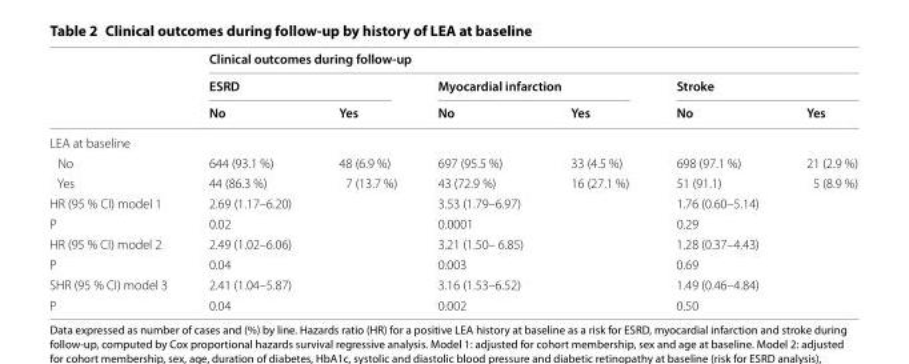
<table><thead><tr><td rowspan="3"></td><td colspan="6">Clinical outcomes during follow‑up</td></tr><tr><td colspan="2">ESRD</td><td colspan="2">Myocardial infarction</td><td colspan="2">Stroke</td></tr><tr><td>No</td><td>Yes</td><td>No</td><td>Yes</td><td>No</td><td>Yes</td></tr></thead><tbody><tr><td colspan="7">LEA at baseline</td></tr><tr><td>No</td><td>644 (93.1 %)</td><td>48 (6.9 %)</td><td>697 (95.5 %)</td><td>33 (4.5 %)</td><td>698 (97.1 %)</td><td>21 (2.9 %)</td></tr><tr><td>Yes</td><td>44 (86.3 %)</td><td>7 (13.7 %)</td><td>43 (72.9 %)</td><td>16 (27.1 %)</td><td>51 (91.1)</td><td>5 (8.9 %)</td></tr><tr><td>HR (95 % CI) model 1</td><td>2.69 (1.17–6.20)</td><td></td><td>3.53 (1.79–6.97)</td><td></td><td>1.76 (0.60–5.14)</td><td></td></tr><tr><td>P</td><td>0.02</td><td></td><td>0.0001</td><td></td><td>0.29</td><td></td></tr><tr><td>HR (95 % CI) model 2</td><td>2.49 (1.02–6.06)</td><td></td><td>3.21 (1.50– 6.85)</td><td></td><td>1.28 (0.37–4.43)</td><td></td></tr><tr><td>P</td><td>0.04</td><td></td><td>0.003</td><td></td><td>0.69</td><td></td></tr><tr><td>SHR (95 % CI) model 3</td><td>2.41 (1.04–5.87)</td><td></td><td>3.16 (1.53–6.52)</td><td></td><td>1.49 (0.46–4.84)</td><td></td></tr><tr><td>P</td><td>0.04</td><td></td><td>0.002</td><td></td><td>0.50</td><td></td></tr></tbody></table>